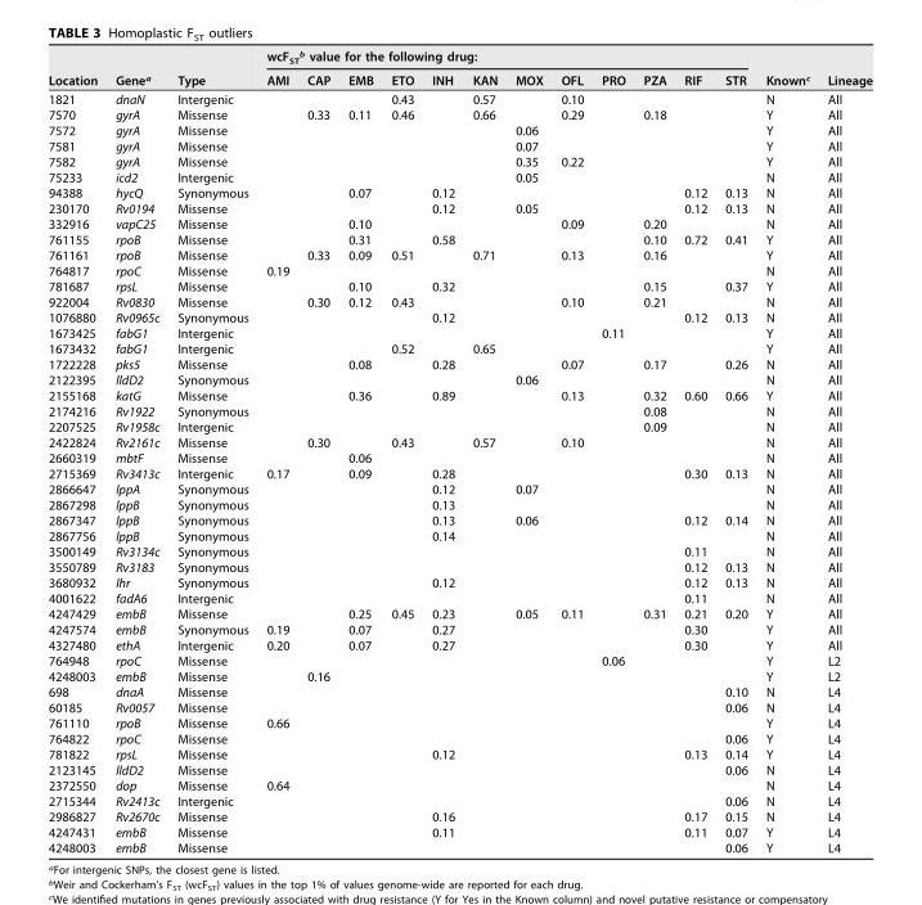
<table><thead><tr><td rowspan="2">Location</td><td rowspan="2">Gene<sup>a</sup></td><td rowspan="2">Type</td><td colspan="12">wcF<sub>ST</sub><sup>b</sup> value for the following drug:</td><td rowspan="2">Known<sup>c</sup></td><td rowspan="2">Lineage</td></tr><tr><td>AMI</td><td>CAP</td><td>EMB</td><td>ETO</td><td>INH</td><td>KAN</td><td>MOX</td><td>OFL</td><td>PRO</td><td>PZA</td><td>RIF</td><td>STR</td></tr></thead><tbody><tr><td>1821</td><td>dnaN</td><td>Intergenic</td><td></td><td></td><td></td><td>0.43</td><td></td><td>0.57</td><td></td><td>0.10</td><td></td><td></td><td></td><td></td><td>N</td><td>All</td></tr><tr><td>7570</td><td>gyrA</td><td>Missense</td><td></td><td>0.33</td><td>0.11</td><td>0.46</td><td></td><td>0.66</td><td></td><td>0.29</td><td></td><td>0.18</td><td></td><td></td><td>Y</td><td>All</td></tr><tr><td>7572</td><td>gyrA</td><td>Missense</td><td></td><td></td><td></td><td></td><td></td><td></td><td>0.06</td><td></td><td></td><td></td><td></td><td></td><td>Y</td><td>All</td></tr><tr><td>7581</td><td>gyrA</td><td>Missense</td><td></td><td></td><td></td><td></td><td></td><td></td><td>0.07</td><td></td><td></td><td></td><td></td><td></td><td>Y</td><td>All</td></tr><tr><td>7582</td><td>gyrA</td><td>Missense</td><td></td><td></td><td></td><td></td><td></td><td></td><td>0.35</td><td>0.22</td><td></td><td></td><td></td><td></td><td>Y</td><td>All</td></tr><tr><td>75233</td><td>icd2</td><td>Intergenic</td><td></td><td></td><td></td><td></td><td></td><td></td><td>0.05</td><td></td><td></td><td></td><td></td><td></td><td>N</td><td>All</td></tr><tr><td>94388</td><td>hycQ</td><td>Synonymous</td><td></td><td></td><td>0.07</td><td></td><td>0.12</td><td></td><td></td><td></td><td></td><td></td><td>0.12</td><td>0.13</td><td>N</td><td>All</td></tr><tr><td>230170</td><td>Rv0194</td><td>Missense</td><td></td><td></td><td></td><td></td><td>0.12</td><td></td><td>0.05</td><td></td><td></td><td></td><td>0.12</td><td>0.13</td><td>N</td><td>All</td></tr><tr><td>332916</td><td>vapC25</td><td>Missense</td><td></td><td></td><td>0.10</td><td></td><td></td><td></td><td></td><td>0.09</td><td></td><td>0.20</td><td></td><td></td><td>N</td><td>All</td></tr><tr><td>761155</td><td>rpoB</td><td>Missense</td><td></td><td></td><td>0.31</td><td></td><td>0.58</td><td></td><td></td><td></td><td></td><td>0.10</td><td>0.72</td><td>0.41</td><td>Y</td><td>All</td></tr><tr><td>761161</td><td>rpoB</td><td>Missense</td><td></td><td>0.33</td><td>0.09</td><td>0.51</td><td></td><td>0.71</td><td></td><td>0.13</td><td></td><td>0.16</td><td></td><td></td><td>Y</td><td>All</td></tr><tr><td>764817</td><td>rpoC</td><td>Missense</td><td>0.19</td><td></td><td></td><td></td><td></td><td></td><td></td><td></td><td></td><td></td><td></td><td></td><td>N</td><td>All</td></tr><tr><td>781687</td><td>rpsL</td><td>Missense</td><td></td><td></td><td>0.10</td><td></td><td>0.32</td><td></td><td></td><td></td><td></td><td>0.15</td><td></td><td>0.37</td><td>Y</td><td>All</td></tr><tr><td>922004</td><td>Rv0830</td><td>Missense</td><td></td><td>0.30</td><td>0.12</td><td>0.43</td><td></td><td></td><td></td><td>0.10</td><td></td><td>0.21</td><td></td><td></td><td>N</td><td>All</td></tr><tr><td>1076880</td><td>Rv0965c</td><td>Synonymous</td><td></td><td></td><td></td><td></td><td>0.12</td><td></td><td></td><td></td><td></td><td></td><td>0.12</td><td>0.13</td><td>N</td><td>All</td></tr><tr><td>1673425</td><td>fabG1</td><td>Intergenic</td><td></td><td></td><td></td><td></td><td></td><td></td><td></td><td></td><td>0.11</td><td></td><td></td><td></td><td>Y</td><td>All</td></tr><tr><td>1673432</td><td>fabG1</td><td>Intergenic</td><td></td><td></td><td></td><td>0.52</td><td></td><td>0.65</td><td></td><td></td><td></td><td></td><td></td><td></td><td>Y</td><td>All</td></tr><tr><td>1722228</td><td>pks5</td><td>Missense</td><td></td><td></td><td>0.08</td><td></td><td>0.28</td><td></td><td></td><td>0.07</td><td></td><td>0.17</td><td></td><td>0.26</td><td>N</td><td>All</td></tr><tr><td>2122395</td><td>lldD2</td><td>Synonymous</td><td></td><td></td><td></td><td></td><td></td><td></td><td>0.06</td><td></td><td></td><td></td><td></td><td></td><td>N</td><td>All</td></tr><tr><td>2155168</td><td>katG</td><td>Missense</td><td></td><td></td><td>0.36</td><td></td><td>0.89</td><td></td><td></td><td>0.13</td><td></td><td>0.32</td><td>0.60</td><td>0.66</td><td>Y</td><td>All</td></tr><tr><td>2174216</td><td>Rv1922</td><td>Synonymous</td><td></td><td></td><td></td><td></td><td></td><td></td><td></td><td></td><td></td><td>0.08</td><td></td><td></td><td>N</td><td>All</td></tr><tr><td>2207525</td><td>Rv1958c</td><td>Intergenic</td><td></td><td></td><td></td><td></td><td></td><td></td><td></td><td></td><td></td><td>0.09</td><td></td><td></td><td>N</td><td>All</td></tr><tr><td>2422824</td><td>Rv2161c</td><td>Missense</td><td></td><td>0.30</td><td></td><td>0.43</td><td></td><td>0.57</td><td></td><td>0.10</td><td></td><td></td><td></td><td></td><td>N</td><td>All</td></tr><tr><td>2660319</td><td>mbtF</td><td>Missense</td><td></td><td></td><td>0.06</td><td></td><td></td><td></td><td></td><td></td><td></td><td></td><td></td><td></td><td>N</td><td>All</td></tr><tr><td>2715369</td><td>Rv3413c</td><td>Intergenic</td><td>0.17</td><td></td><td>0.09</td><td></td><td>0.28</td><td></td><td></td><td></td><td></td><td></td><td>0.30</td><td>0.13</td><td>N</td><td>All</td></tr><tr><td>2866647</td><td>lppA</td><td>Synonymous</td><td></td><td></td><td></td><td></td><td>0.12</td><td></td><td>0.07</td><td></td><td></td><td></td><td></td><td></td><td>N</td><td>All</td></tr><tr><td>2867298</td><td>lppB</td><td>Synonymous</td><td></td><td></td><td></td><td></td><td>0.13</td><td></td><td></td><td></td><td></td><td></td><td></td><td></td><td>N</td><td>All</td></tr><tr><td>2867347</td><td>lppB</td><td>Synonymous</td><td></td><td></td><td></td><td></td><td>0.13</td><td></td><td>0.06</td><td></td><td></td><td></td><td>0.12</td><td>0.14</td><td>N</td><td>All</td></tr><tr><td>2867756</td><td>lppB</td><td>Synonymous</td><td></td><td></td><td></td><td></td><td>0.14</td><td></td><td></td><td></td><td></td><td></td><td></td><td></td><td>N</td><td>All</td></tr><tr><td>3500149</td><td>Rv3134c</td><td>Synonymous</td><td></td><td></td><td></td><td></td><td></td><td></td><td></td><td></td><td></td><td></td><td>0.11</td><td></td><td>N</td><td>All</td></tr><tr><td>3550789</td><td>Rv3183</td><td>Synonymous</td><td></td><td></td><td></td><td></td><td></td><td></td><td></td><td></td><td></td><td></td><td>0.12</td><td>0.13</td><td>N</td><td>All</td></tr><tr><td>3680932</td><td>lhr</td><td>Synonymous</td><td></td><td></td><td></td><td></td><td>0.12</td><td></td><td></td><td></td><td></td><td></td><td>0.12</td><td>0.13</td><td>N</td><td>All</td></tr><tr><td>4001622</td><td>fadA6</td><td>Intergenic</td><td></td><td></td><td></td><td></td><td></td><td></td><td></td><td></td><td></td><td></td><td>0.11</td><td></td><td>N</td><td>All</td></tr><tr><td>4247429</td><td>embB</td><td>Missense</td><td></td><td></td><td>0.25</td><td>0.45</td><td>0.23</td><td></td><td>0.05</td><td>0.11</td><td></td><td>0.31</td><td>0.21</td><td>0.20</td><td>Y</td><td>All</td></tr><tr><td>4247574</td><td>embB</td><td>Synonymous</td><td>0.19</td><td></td><td>0.07</td><td></td><td>0.27</td><td></td><td></td><td></td><td></td><td></td><td>0.30</td><td></td><td>Y</td><td>All</td></tr><tr><td>4327480</td><td>ethA</td><td>Intergenic</td><td>0.20</td><td></td><td>0.07</td><td></td><td>0.27</td><td></td><td></td><td></td><td></td><td></td><td>0.30</td><td></td><td>Y</td><td>All</td></tr><tr><td>764948</td><td>rpoC</td><td>Missense</td><td></td><td></td><td></td><td></td><td></td><td></td><td></td><td></td><td>0.06</td><td></td><td></td><td></td><td>Y</td><td>L2</td></tr><tr><td>4248003</td><td>embB</td><td>Missense</td><td></td><td>0.16</td><td></td><td></td><td></td><td></td><td></td><td></td><td></td><td></td><td></td><td></td><td>Y</td><td>L2</td></tr><tr><td>698</td><td>dnaA</td><td>Missense</td><td></td><td></td><td></td><td></td><td></td><td></td><td></td><td></td><td></td><td></td><td></td><td>0.10</td><td>N</td><td>L4</td></tr><tr><td>60185</td><td>Rv0057</td><td>Missense</td><td></td><td></td><td></td><td></td><td></td><td></td><td></td><td></td><td></td><td></td><td></td><td>0.06</td><td>N</td><td>L4</td></tr><tr><td>761110</td><td>rpoB</td><td>Missense</td><td>0.66</td><td></td><td></td><td></td><td></td><td></td><td></td><td></td><td></td><td></td><td></td><td></td><td>Y</td><td>L4</td></tr><tr><td>764822</td><td>rpoC</td><td>Missense</td><td></td><td></td><td></td><td></td><td></td><td></td><td></td><td></td><td></td><td></td><td></td><td>0.06</td><td>Y</td><td>L4</td></tr><tr><td>781822</td><td>rpsL</td><td>Missense</td><td></td><td></td><td></td><td></td><td>0.12</td><td></td><td></td><td></td><td></td><td></td><td>0.13</td><td>0.14</td><td>Y</td><td>L4</td></tr><tr><td>2123145</td><td>lldD2</td><td>Missense</td><td></td><td></td><td></td><td></td><td></td><td></td><td></td><td></td><td></td><td></td><td></td><td>0.06</td><td>N</td><td>L4</td></tr><tr><td>2372550</td><td>dop</td><td>Missense</td><td>0.64</td><td></td><td></td><td></td><td></td><td></td><td></td><td></td><td></td><td></td><td></td><td></td><td>N</td><td>L4</td></tr><tr><td>2715344</td><td>Rv2413c</td><td>Intergenic</td><td></td><td></td><td></td><td></td><td></td><td></td><td></td><td></td><td></td><td></td><td></td><td>0.06</td><td>N</td><td>L4</td></tr><tr><td>2986827</td><td>Rv2670c</td><td>Missense</td><td></td><td></td><td></td><td></td><td>0.16</td><td></td><td></td><td></td><td></td><td></td><td>0.17</td><td>0.15</td><td>N</td><td>L4</td></tr><tr><td>4247431</td><td>embB</td><td>Missense</td><td></td><td></td><td></td><td></td><td>0.11</td><td></td><td></td><td></td><td></td><td></td><td>0.11</td><td>0.07</td><td>Y</td><td>L4</td></tr><tr><td>4248003</td><td>embB</td><td>Missense</td><td></td><td></td><td></td><td></td><td></td><td></td><td></td><td></td><td></td><td></td><td></td><td>0.06</td><td>Y</td><td>L4</td></tr></tbody></table>